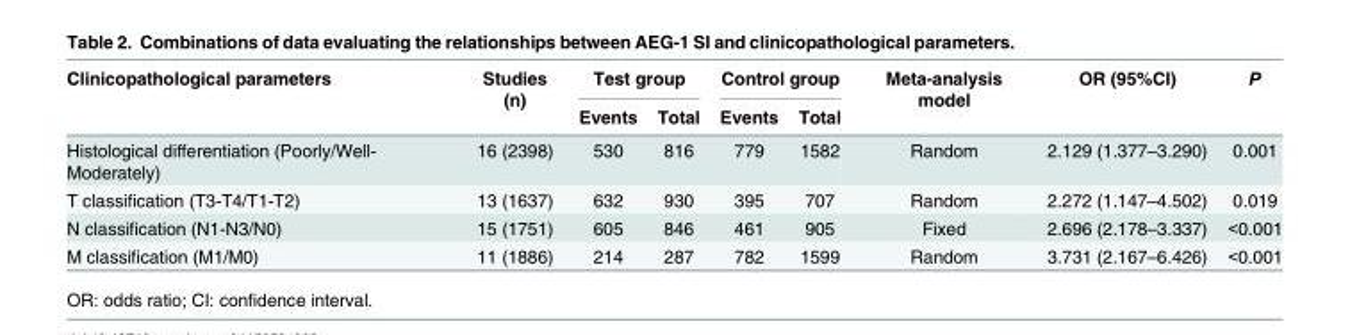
<table><thead><tr><td rowspan="2">Clinicopathological parameters</td><td rowspan="2">Studies (n)</td><td colspan="2">Test group</td><td colspan="2">Control group</td><td rowspan="2">Meta-analysis model</td><td rowspan="2">OR (95%CI)</td><td rowspan="2">P</td></tr><tr><td>Events</td><td>Total</td><td>Events</td><td>Total</td></tr></thead><tbody><tr><td>Histological differentiation (Poorly/Well- Moderately)</td><td>16 (2398)</td><td>530</td><td>816</td><td>779</td><td>1582</td><td>Random</td><td>2.129 (1.377–3.290)</td><td>0.001</td></tr><tr><td>T classification (T3-T4/T1-T2)</td><td>13 (1637)</td><td>632</td><td>930</td><td>395</td><td>707</td><td>Random</td><td>2.272 (1.147–4.502)</td><td>0.019</td></tr><tr><td>N classification (N1-N3/N0)</td><td>15 (1751)</td><td>605</td><td>846</td><td>461</td><td>905</td><td>Fixed</td><td>2.696 (2.178–3.337)</td><td>&lt;0.001</td></tr><tr><td>M classification (M1/M0)</td><td>11 (1886)</td><td>214</td><td>287</td><td>782</td><td>1599</td><td>Random</td><td>3.731 (2.167–6.426)</td><td>&lt;0.001</td></tr></tbody></table>